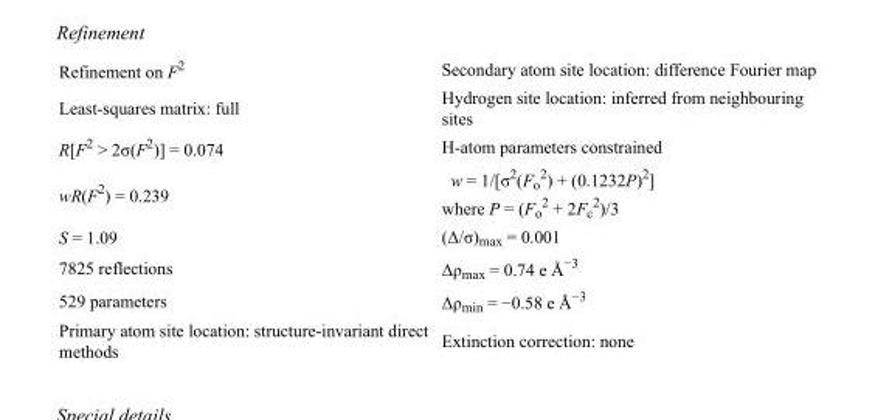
<table><tbody><tr><td>Refinement on F<sup>2</sup></td><td>Secondary atom site location: difference Fourier map</td></tr><tr><td>Least-squares matrix: full</td><td>Hydrogen site location: inferred from neighbouring sites</td></tr><tr><td>R[F<sup>2</sup> &gt; 2σ(F<sup>2</sup>)] = 0.074</td><td>H-atom parameters constrained</td></tr><tr><td>wR(F<sup>2</sup>) = 0.239</td><td>w = 1/[σ<sup>2</sup>(F<sub>o</sub> <sup>2</sup>) + (0.1232P)<sup>2</sup>] where P = (F<sub>o</sub> <sup>2</sup> + 2F<sub>c</sub> <sup>2</sup>)/3</td></tr><tr><td>S = 1.09</td><td>(Δ/σ)<sub>max</sub> = 0.001</td></tr><tr><td>7825 reflections</td><td>Δρ<sub>max</sub> = 0.74 e Å<sup>−3</sup></td></tr><tr><td>529 parameters</td><td>Δρ<sub>min</sub> = −0.58 e Å<sup>−3</sup></td></tr><tr><td>Primary atom site location: structure-invariant direct methods</td><td>Extinction correction: none</td></tr></tbody></table>